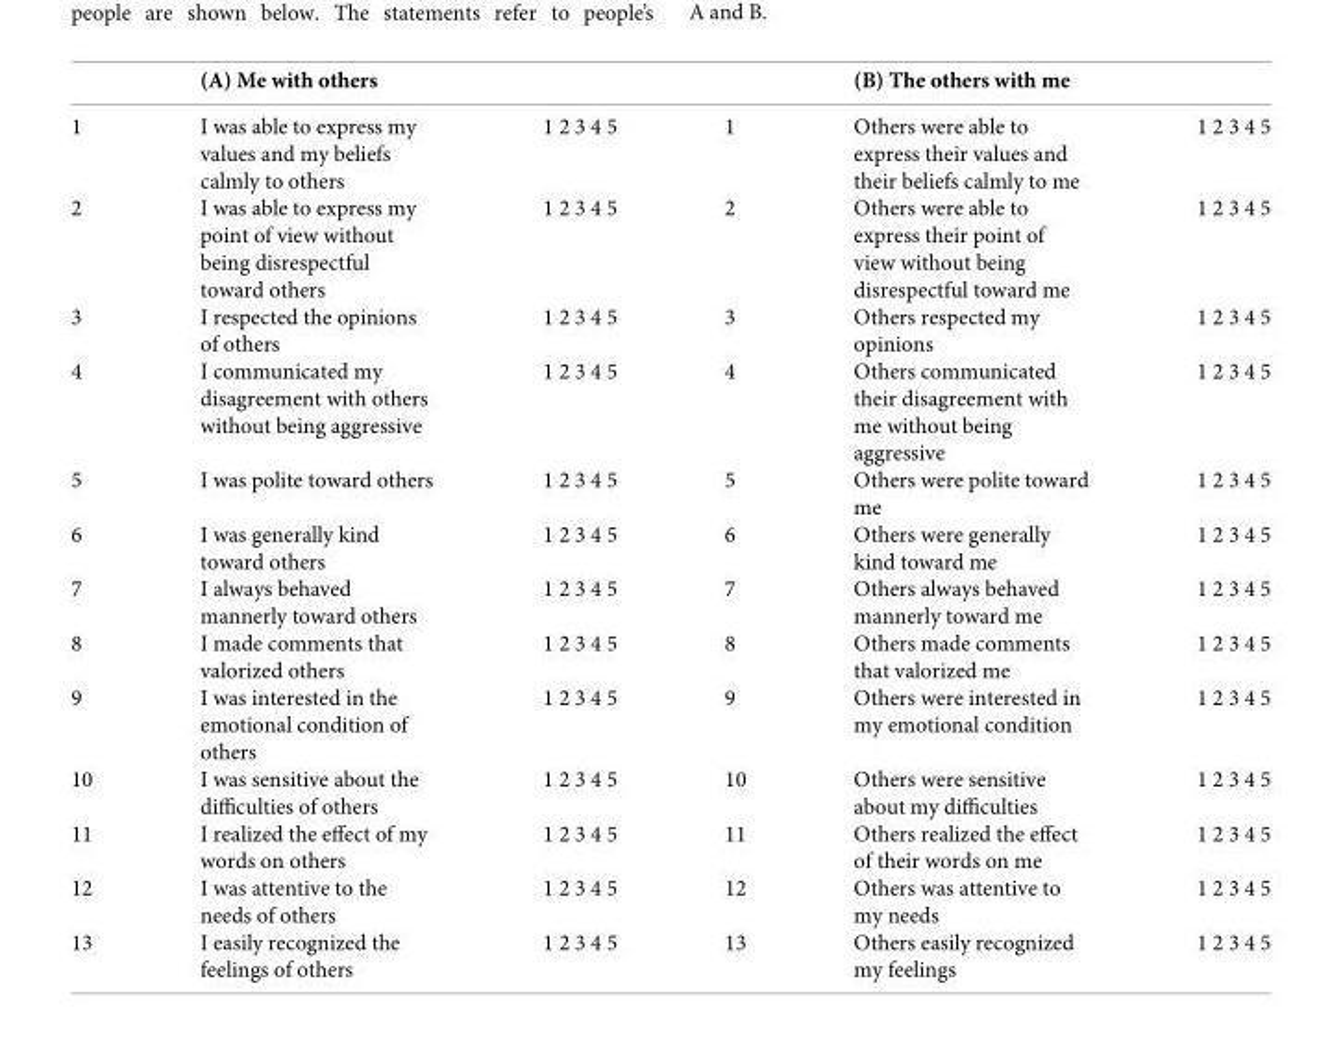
<table><thead><tr><td rowspan="2">1</td><td colspan="2">(A) Me with others</td><td rowspan="2">1</td><td colspan="2">(B) The others with me</td></tr><tr><td>I was able to express my values and my beliefs calmly to others</td><td>1 2 3 4 5</td><td>Others were able to express their values and their beliefs calmly to me</td><td>1 2 3 4 5</td></tr></thead><tbody><tr><td>2</td><td>I was able to express my point of view without being disrespectful toward others</td><td>1 2 3 4 5</td><td>2</td><td>Others were able to express their point of view without being disrespectful toward me</td><td>1 2 3 4 5</td></tr><tr><td>3</td><td>I respected the opinions of others</td><td>1 2 3 4 5</td><td>3</td><td>Others respected my opinions</td><td>1 2 3 4 5</td></tr><tr><td>4</td><td>I communicated my disagreement with others without being aggressive</td><td>1 2 3 4 5</td><td>4</td><td>Others communicated their disagreement with me without being aggressive</td><td>1 2 3 4 5</td></tr><tr><td>5</td><td>I was polite toward others</td><td>1 2 3 4 5</td><td>5</td><td>Others were polite toward me</td><td>1 2 3 4 5</td></tr><tr><td>6</td><td>I was generally kind toward others</td><td>1 2 3 4 5</td><td>6</td><td>Others were generally kind toward me</td><td>1 2 3 4 5</td></tr><tr><td>7</td><td>I always behaved mannerly toward others</td><td>1 2 3 4 5</td><td>7</td><td>Others always behaved mannerly toward me</td><td>1 2 3 4 5</td></tr><tr><td>8</td><td>I made comments that valorized others</td><td>1 2 3 4 5</td><td>8</td><td>Others made comments that valorized me</td><td>1 2 3 4 5</td></tr><tr><td>9</td><td>I was interested in the emotional condition of others</td><td>1 2 3 4 5</td><td>9</td><td>Others were interested in my emotional condition</td><td>1 2 3 4 5</td></tr><tr><td>10</td><td>I was sensitive about the difficulties of others</td><td>1 2 3 4 5</td><td>10</td><td>Others were sensitive about my difficulties</td><td>1 2 3 4 5</td></tr><tr><td>11</td><td>I realized the effect of my words on others</td><td>1 2 3 4 5</td><td>11</td><td>Others realized the effect of their words on me</td><td>1 2 3 4 5</td></tr><tr><td>12</td><td>I was attentive to the needs of others</td><td>1 2 3 4 5</td><td>12</td><td>Others was attentive to my needs</td><td>1 2 3 4 5</td></tr><tr><td>13</td><td>I easily recognized the feelings of others</td><td>1 2 3 4 5</td><td>13</td><td>Others easily recognized my feelings</td><td>1 2 3 4 5</td></tr></tbody></table>